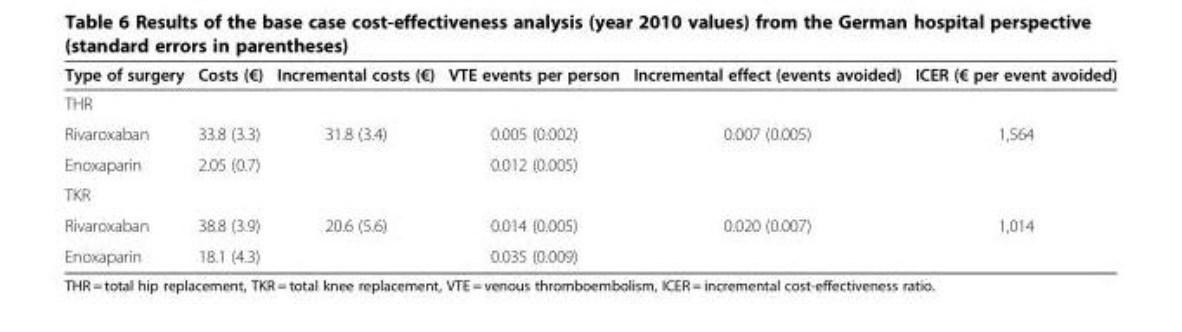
<table><thead><tr><td>Type of surgery</td><td>Costs (€)</td><td>Incremental costs (€)</td><td>VTE events per person</td><td>Incremental effect (events avoided)</td><td>ICER (€ per event avoided)</td></tr></thead><tbody><tr><td colspan="6">THR</td></tr><tr><td>Rivaroxaban</td><td>33.8 (3.3)</td><td>31.8 (3.4)</td><td>0.005 (0.002)</td><td>0.007 (0.005)</td><td>1,564</td></tr><tr><td>Enoxaparin</td><td>2.05 (0.7)</td><td></td><td>0.012 (0.005)</td><td></td><td></td></tr><tr><td colspan="6">TKR</td></tr><tr><td>Rivaroxaban</td><td>38.8 (3.9)</td><td>20.6 (5.6)</td><td>0.014 (0.005)</td><td>0.020 (0.007)</td><td>1,014</td></tr><tr><td>Enoxaparin</td><td>18.1 (4.3)</td><td></td><td>0.035 (0.009)</td><td></td><td></td></tr></tbody></table>